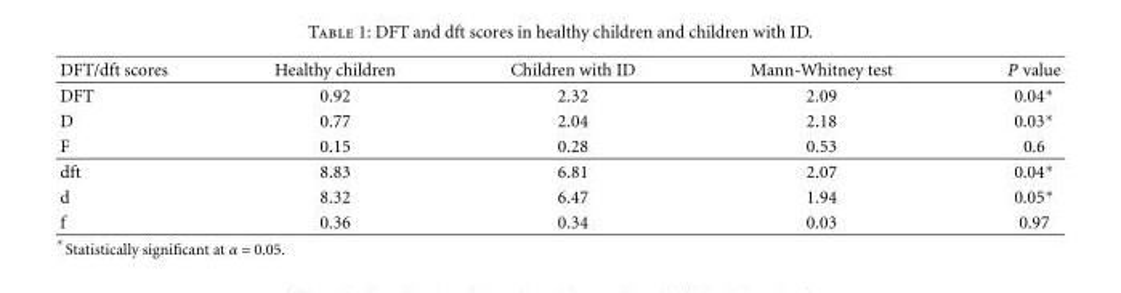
<table><thead><tr><td>DFT/dft scores</td><td>Healthy children</td><td>Children with ID</td><td>Mann-Whitney test</td><td>P value</td></tr></thead><tbody><tr><td>DFT</td><td>0.92</td><td>2.32</td><td>2.09</td><td>0.04∗</td></tr><tr><td>D</td><td>0.77</td><td>2.04</td><td>2.18</td><td>0.03∗</td></tr><tr><td>F</td><td>0.15</td><td>0.28</td><td>0.53</td><td>0.6</td></tr><tr><td>dft</td><td>8.83</td><td>6.81</td><td>2.07</td><td>0.04∗</td></tr><tr><td>d</td><td>8.32</td><td>6.47</td><td>1.94</td><td>0.05∗</td></tr><tr><td>f</td><td>0.36</td><td>0.34</td><td>0.03</td><td>0.97</td></tr></tbody></table>